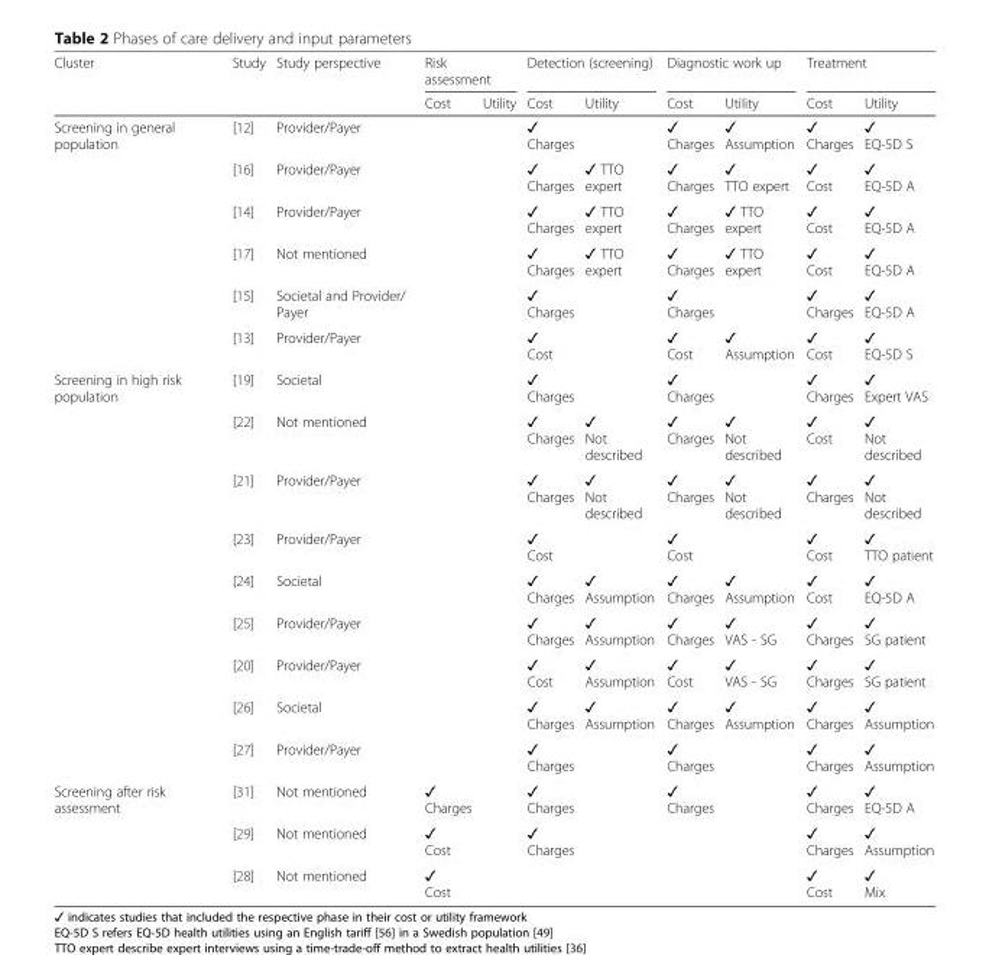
<table><thead><tr><td rowspan="2">Cluster</td><td rowspan="2">Study</td><td rowspan="2">Study perspective</td><td colspan="2">Risk assessment</td><td colspan="2">Detection (screening)</td><td colspan="2">Diagnostic work up</td><td colspan="2">Treatment</td></tr><tr><td>Cost</td><td>Utility</td><td>Cost</td><td>Utility</td><td>Cost</td><td>Utility</td><td>Cost</td><td>Utility</td></tr></thead><tbody><tr><td rowspan="6">Screening in general population</td><td>[12]</td><td>Provider/Payer</td><td></td><td></td><td>✓ Charges</td><td></td><td>✓ Charges</td><td>✓ Assumption</td><td>✓ Charges</td><td>✓ EQ-5D S</td></tr><tr><td>[16]</td><td>Provider/Payer</td><td></td><td></td><td>✓ Charges</td><td>✓ TTO expert</td><td>✓ Charges</td><td>✓ TTO expert</td><td>✓ Cost</td><td>✓ EQ-5D A</td></tr><tr><td>[14]</td><td>Provider/Payer</td><td></td><td></td><td>✓ Charges</td><td>✓ TTO expert</td><td>✓ Charges</td><td>✓ TTO expert</td><td>✓ Cost</td><td>✓ EQ-5D A</td></tr><tr><td>[17]</td><td>Not mentioned</td><td></td><td></td><td>✓ Charges</td><td>✓ TTO expert</td><td>✓ Charges</td><td>✓ TTO expert</td><td>✓ Cost</td><td>✓ EQ-5D A</td></tr><tr><td>[15]</td><td>Societal and Provider/ Payer</td><td></td><td></td><td>✓ Charges</td><td></td><td>✓ Charges</td><td></td><td>✓ Charges</td><td>✓ EQ-5D A</td></tr><tr><td>[13]</td><td>Provider/Payer</td><td></td><td></td><td>✓ Cost</td><td></td><td>✓ Cost</td><td>✓ Assumption</td><td>✓ Cost</td><td>✓ EQ-5D S</td></tr><tr><td rowspan="9">Screening in high risk population</td><td>[19]</td><td>Societal</td><td></td><td></td><td>✓ Charges</td><td></td><td>✓ Charges</td><td></td><td>✓ Charges</td><td>✓ Expert VAS</td></tr><tr><td>[22]</td><td>Not mentioned</td><td></td><td></td><td>✓ Charges</td><td>✓ Not described</td><td>✓ Charges</td><td>✓ Not described</td><td>✓ Cost</td><td>✓ Not described</td></tr><tr><td>[21]</td><td>Provider/Payer</td><td></td><td></td><td>✓ Charges</td><td>✓ Not described</td><td>✓ Charges</td><td>✓ Not described</td><td>✓ Charges</td><td>✓ Not described</td></tr><tr><td>[23]</td><td>Provider/Payer</td><td></td><td></td><td>✓ Cost</td><td></td><td>✓ Cost</td><td></td><td>✓ Cost</td><td>✓ TTO patient</td></tr><tr><td>[24]</td><td>Societal</td><td></td><td></td><td>✓ Charges</td><td>✓ Assumption</td><td>✓ Charges</td><td>✓ Assumption</td><td>✓ Cost</td><td>✓ EQ-5D A</td></tr><tr><td>[25]</td><td>Provider/Payer</td><td></td><td></td><td>✓ Charges</td><td>✓ Assumption</td><td>✓ Charges</td><td>✓ VAS - SG</td><td>✓ Charges</td><td>✓ SG patient</td></tr><tr><td>[20]</td><td>Provider/Payer</td><td></td><td></td><td>✓ Cost</td><td>✓ Assumption</td><td>✓ Cost</td><td>✓ VAS - SG</td><td>✓ Charges</td><td>✓ SG patient</td></tr><tr><td>[26]</td><td>Societal</td><td></td><td></td><td>✓ Charges</td><td>✓ Assumption</td><td>✓ Charges</td><td>✓ Assumption</td><td>✓ Charges</td><td>✓ Assumption</td></tr><tr><td>[27]</td><td>Provider/Payer</td><td></td><td></td><td>✓ Charges</td><td></td><td>✓ Charges</td><td></td><td>✓ Charges</td><td>✓ Assumption</td></tr><tr><td rowspan="3">Screening after risk assessment</td><td>[31]</td><td>Not mentioned</td><td>✓ Charges</td><td></td><td>✓ Charges</td><td></td><td>✓ Charges</td><td></td><td>✓ Charges</td><td>✓ EQ-5D A</td></tr><tr><td>[29]</td><td>Not mentioned</td><td>✓ Cost</td><td></td><td>✓ Charges</td><td></td><td></td><td></td><td>✓ Charges</td><td>✓ Assumption</td></tr><tr><td>[28]</td><td>Not mentioned</td><td>✓ Cost</td><td></td><td></td><td></td><td></td><td></td><td>✓ Cost</td><td>✓ Mix</td></tr></tbody></table>